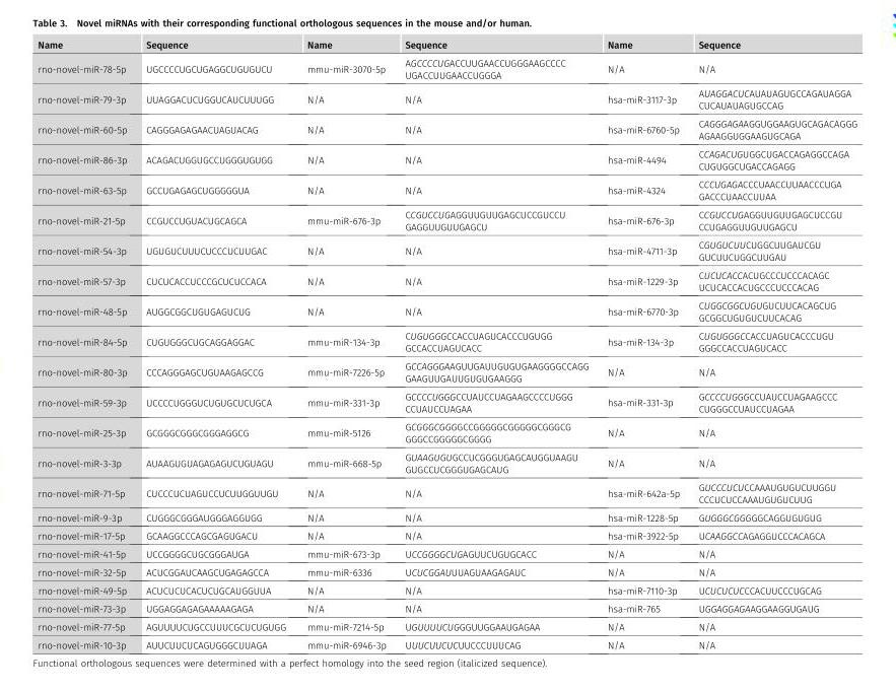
<table><thead><tr><td>Name</td><td>Sequence</td><td>Name</td><td>Sequence</td><td>Name</td><td>Sequence</td></tr></thead><tbody><tr><td>rno-novel-miR-78-5p</td><td>UGCCCCUGCUGAGGCUGUGUCU</td><td>mmu-miR-3070-5p</td><td>AGCCCCUGACCUUGAACCUGGGAAGCCCC UGACCUUGAACCUGGGA</td><td>N/A</td><td>N/A</td></tr><tr><td>rno-novel-miR-79-3p</td><td>UUAGGACUCUGGUCAUCUUUGG</td><td>N/A</td><td>N/A</td><td>hsa-miR-3117-3p</td><td>AUAGGACUCAUAUAGUGCCAGAUAGGA CUCAUAUAGUGCCAG</td></tr><tr><td>rno-novel-miR-60-5p</td><td>CAGGGAGAGAACUAGUACAG</td><td>N/A</td><td>N/A</td><td>hsa-miR-6760-5p</td><td>CAGGGAGAAGGUGGAAGUGCAGACAGGG AGAAGGUGGAAGUGCAGA</td></tr><tr><td>rno-novel-miR-86-3p</td><td>ACAGACUGGUGCCUGGGUGUGG</td><td>N/A</td><td>N/A</td><td>hsa-miR-4494</td><td>CCAGACUGUGGCUGACCAGAGGCCAGA CUGUGGCUGACCAGAGG</td></tr><tr><td>rno-novel-miR-63-5p</td><td>GCCUGAGAGCUGGGGGUA</td><td>N/A</td><td>N/A</td><td>hsa-miR-4324</td><td>CCCUGAGACCCUAACCUUAACCCUGA GACCCUAACCUUAA</td></tr><tr><td>rno-novel-miR-21-5p</td><td>CCGUCCUGUACUGCAGCA</td><td>mmu-miR-676-3p</td><td>CCGUCCUGAGGUUGUUGAGCUCCGUCCU GAGGUUGUUGAGCU</td><td>hsa-miR-676-3p</td><td>CCGUCCUGAGGUUGUUGAGCUCCGU CCUGAGGUUGUUGAGCU</td></tr><tr><td>rno-novel-miR-54-3p</td><td>UGUGUCUUUCUCCCUCUUGAC</td><td>N/A</td><td>N/A</td><td>hsa-miR-4711-3p</td><td>CGUGUCUUCUGGCUUGAUCGU GUCUUCUGGCUUGAU</td></tr><tr><td>rno-novel-miR-57-3p</td><td>CUCUCACCUCCCGCUCUCCACA</td><td>N/A</td><td>N/A</td><td>hsa-miR-1229-3p</td><td>CUCUCACCACUGCCCUCCCACAGC UCUCACCACUGCCCUCCCACAG</td></tr><tr><td>rno-novel-miR-48-5p</td><td>AUGGCGGCUGUGAGUCUG</td><td>N/A</td><td>N/A</td><td>hsa-miR-6770-3p</td><td>CUGGCGGCUGUGUCUUCACAGCUG GCGGCUGUGUCUUCACAG</td></tr><tr><td>rno-novel-miR-84-5p</td><td>CUGUGGGCUGCAGGAGGAC</td><td>mmu-miR-134-3p</td><td>CUGUGGGCCACCUAGUCACCCUGUGG GCCACCUAGUCACC</td><td>hsa-miR-134-3p</td><td>CUGUGGGCCACCUAGUCACCCUGU GGGCCACCUAGUCACC</td></tr><tr><td>rno-novel-miR-80-3p</td><td>CCCAGGGAGCUGUAAGAGCCG</td><td>mmu-miR-7226-5p</td><td>GCCAGGGAAGUUGAUUGUGUGAAGGGGCCAGG GAAGUUGAUUGUGUGAAGGG</td><td>N/A</td><td>N/A</td></tr><tr><td>rno-novel-miR-59-3p</td><td>UCCCCUGGGUCUGUGCUCUGCA</td><td>mmu-miR-331-3p</td><td>GCCCCUGGGCCUAUCCUAGAAGCCCCUGGG CCUAUCCUAGAA</td><td>hsa-miR-331-3p</td><td>GCCCCUGGGCCUAUCCUAGAAGCCC CUGGGCCUAUCCUAGAA</td></tr><tr><td>rno-novel-miR-25-3p</td><td>GCGGGCGGGCGGGAGGCG</td><td>mmu-miR-5126</td><td>GCGGGCGGGGCCGGGGGCGGGGGCGGGCG GGGCCGGGGGCGGGG</td><td>N/A</td><td>N/A</td></tr><tr><td>rno-novel-miR-3-3p</td><td>AUAAGUGUAGAGAGUCUGUAGU</td><td>mmu-miR-668-5p</td><td>GUAAGUGUGCCUCGGGUGAGCAUGGUAAGU GUGCCUCGGGUGAGCAUG</td><td>N/A</td><td>N/A</td></tr><tr><td>rno-novel-miR-71-5p</td><td>CUCCCUCUAGUCCUCUUGGUUGU</td><td>N/A</td><td>N/A</td><td>hsa-miR-642a-5p</td><td>GUCCCUCUCCAAAUGUGUCUUGGU CCCUCUCCAAAUGUGUCUUG</td></tr><tr><td>rno-novel-miR-9-3p</td><td>CUGGGCGGGAUGGGAGGUGG</td><td>N/A</td><td>N/A</td><td>hsa-miR-1228-5p</td><td>GUGGGCGGGGGCAGGUGUGUG</td></tr><tr><td>rno-novel-miR-17-5p</td><td>GCAAGGCCCAGCGAGUGACU</td><td>N/A</td><td>N/A</td><td>hsa-miR-3922-5p</td><td>UCAAGGCCAGAGGUCCCACAGCA</td></tr><tr><td>rno-novel-miR-41-5p</td><td>UCCGGGGCUGCGGGAUGA</td><td>mmu-miR-673-3p</td><td>UCCGGGGCUGAGUUCUGUGCACC</td><td>N/A</td><td>N/A</td></tr><tr><td>rno-novel-miR-32-5p</td><td>ACUCGGAUCAAGCUGAGAGCCA</td><td>mmu-miR-6336</td><td>UCUCGGAUUUAGUAAGAGAUC</td><td>N/A</td><td>N/A</td></tr><tr><td>rno-novel-miR-49-5p</td><td>ACUCUCUCACUCUGCAUGGUUA</td><td>N/A</td><td>N/A</td><td>hsa-miR-7110-3p</td><td>UCUCUCUCCCACUUCCCUGCAG</td></tr><tr><td>rno-novel-miR-73-3p</td><td>UGGAGGAGAGAAAAAGAGA</td><td>N/A</td><td>N/A</td><td>hsa-miR-765</td><td>UGGAGGAGAAGGAAGGUGAUG</td></tr><tr><td>rno-novel-miR-77-5p</td><td>AGUUUUCUGCCUUUCGCUCUGUGG</td><td>mmu-miR-7214-5p</td><td>UGUUUUCUGGGUUGGAAUGAGAA</td><td>N/A</td><td>N/A</td></tr><tr><td>rno-novel-miR-10-3p</td><td>AUUCUUCUCAGUGGGCUUAGA</td><td>mmu-miR-6946-3p</td><td>UUUCUUCUCUUCCCUUUCAG</td><td>N/A</td><td>N/A</td></tr></tbody></table>